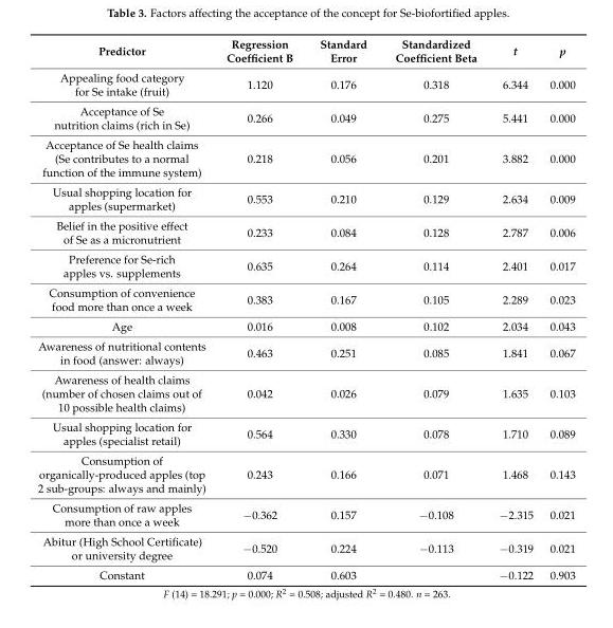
<table><thead><tr><td>Predictor</td><td>Regression Coefficient B</td><td>Standard Error</td><td>Standardized Coefficient Beta</td><td>t</td><td>p</td></tr></thead><tbody><tr><td>Appealing food category for Se intake (fruit)</td><td>1.120</td><td>0.176</td><td>0.318</td><td>6.344</td><td>0.000</td></tr><tr><td>Acceptance of Se nutrition claims (rich in Se)</td><td>0.266</td><td>0.049</td><td>0.275</td><td>5.441</td><td>0.000</td></tr><tr><td>Acceptance of Se health claims (Se contributes to a normal function of the immune system)</td><td>0.218</td><td>0.056</td><td>0.201</td><td>3.882</td><td>0.000</td></tr><tr><td>Usual shopping location for apples (supermarket)</td><td>0.553</td><td>0.210</td><td>0.129</td><td>2.634</td><td>0.009</td></tr><tr><td>Belief in the positive effect of Se as a micronutrient</td><td>0.233</td><td>0.084</td><td>0.128</td><td>2.787</td><td>0.006</td></tr><tr><td>Preference for Se-rich apples vs. supplements</td><td>0.635</td><td>0.264</td><td>0.114</td><td>2.401</td><td>0.017</td></tr><tr><td>Consumption of convenience food more than once a week</td><td>0.383</td><td>0.167</td><td>0.105</td><td>2.289</td><td>0.023</td></tr><tr><td>Age</td><td>0.016</td><td>0.008</td><td>0.102</td><td>2.034</td><td>0.043</td></tr><tr><td>Awareness of nutritional contents in food (answer: always)</td><td>0.463</td><td>0.251</td><td>0.085</td><td>1.841</td><td>0.067</td></tr><tr><td>Awareness of health claims (number of chosen claims out of 10 possible health claims)</td><td>0.042</td><td>0.026</td><td>0.079</td><td>1.635</td><td>0.103</td></tr><tr><td>Usual shopping location for apples (specialist retail)</td><td>0.564</td><td>0.330</td><td>0.078</td><td>1.710</td><td>0.089</td></tr><tr><td>Consumption of organically-produced apples (top 2 sub-groups: always and mainly)</td><td>0.243</td><td>0.166</td><td>0.071</td><td>1.468</td><td>0.143</td></tr><tr><td>Consumption of raw apples more than once a week</td><td>−0.362</td><td>0.157</td><td>−0.108</td><td>−2.315</td><td>0.021</td></tr><tr><td>Abitur (High School Certificate) or university degree</td><td>−0.520</td><td>0.224</td><td>−0.113</td><td>−0.319</td><td>0.021</td></tr><tr><td>Constant</td><td>0.074</td><td>0.603</td><td></td><td>−0.122</td><td>0.903</td></tr></tbody></table>